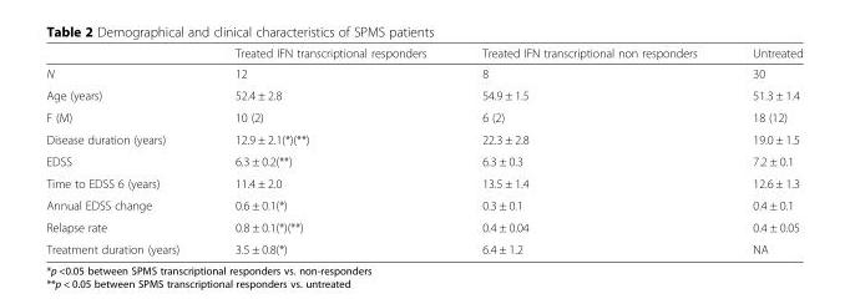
<table><thead><tr><td></td><td>Treated IFN transcriptional responders</td><td>Treated IFN transcriptional non responders</td><td>Untreated</td></tr></thead><tbody><tr><td>N</td><td>12</td><td>8</td><td>30</td></tr><tr><td>Age (years)</td><td>52.4 ± 2.8</td><td>54.9 ± 1.5</td><td>51.3 ± 1.4</td></tr><tr><td>F (M)</td><td>10 (2)</td><td>6 (2)</td><td>18 (12)</td></tr><tr><td>Disease duration (years)</td><td>12.9 ± 2.1(*)(**)</td><td>22.3 ± 2.8</td><td>19.0 ± 1.5</td></tr><tr><td>EDSS</td><td>6.3 ± 0.2(**)</td><td>6.3 ± 0.3</td><td>7.2 ± 0.1</td></tr><tr><td>Time to EDSS 6 (years)</td><td>11.4 ± 2.0</td><td>13.5 ± 1.4</td><td>12.6 ± 1.3</td></tr><tr><td>Annual EDSS change</td><td>0.6 ± 0.1(*)</td><td>0.3 ± 0.1</td><td>0.4 ± 0.1</td></tr><tr><td>Relapse rate</td><td>0.8 ± 0.1(*)(**)</td><td>0.4 ± 0.04</td><td>0.4 ± 0.05</td></tr><tr><td>Treatment duration (years)</td><td>3.5 ± 0.8(*)</td><td>6.4 ± 1.2</td><td>NA</td></tr></tbody></table>